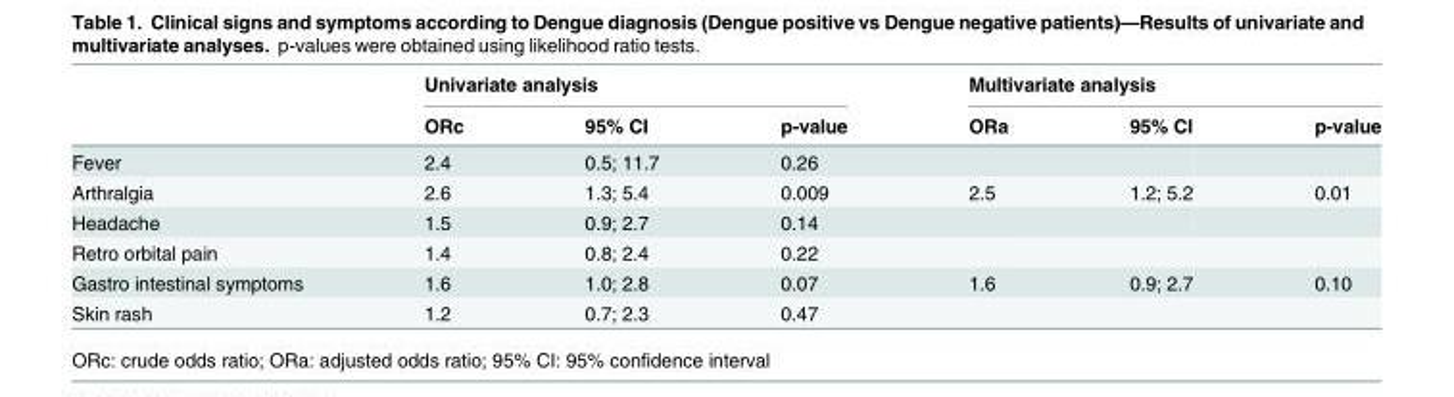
<table><thead><tr><td rowspan="2"></td><td colspan="3">Univariate analysis</td><td colspan="3">Multivariate analysis</td></tr><tr><td>ORc</td><td>95% CI</td><td>p-value</td><td>ORa</td><td>95% CI</td><td>p-value</td></tr></thead><tbody><tr><td>Fever</td><td>2.4</td><td>0.5; 11.7</td><td>0.26</td><td></td><td></td><td></td></tr><tr><td>Arthralgia</td><td>2.6</td><td>1.3; 5.4</td><td>0.009</td><td>2.5</td><td>1.2; 5.2</td><td>0.01</td></tr><tr><td>Headache</td><td>1.5</td><td>0.9; 2.7</td><td>0.14</td><td></td><td></td><td></td></tr><tr><td>Retro orbital pain</td><td>1.4</td><td>0.8; 2.4</td><td>0.22</td><td></td><td></td><td></td></tr><tr><td>Gastro intestinal symptoms</td><td>1.6</td><td>1.0; 2.8</td><td>0.07</td><td>1.6</td><td>0.9; 2.7</td><td>0.10</td></tr><tr><td>Skin rash</td><td>1.2</td><td>0.7; 2.3</td><td>0.47</td><td></td><td></td><td></td></tr></tbody></table>